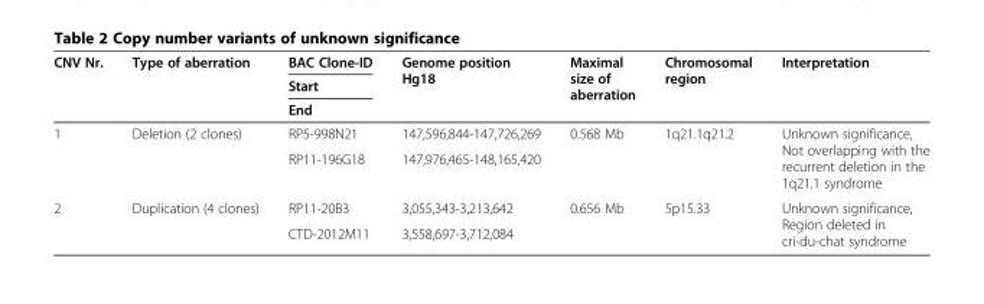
<table><thead><tr><td rowspan="3">CNV Nr.</td><td rowspan="3">Type of aberration</td><td rowspan="3">BAC Clone-ID Start End</td><td rowspan="3">Genome position Hg18</td><td rowspan="3">Maximal size of aberration</td><td rowspan="3">Chromosomal region</td><td rowspan="3">Interpretation</td></tr><tr></tr><tr></tr></thead><tbody><tr><td rowspan="2">1</td><td rowspan="2">Deletion (2 clones)</td><td>RP5-998N21</td><td>147,596,844-147,726,269</td><td rowspan="2">0.568 Mb</td><td rowspan="2">1q21.1q21.2</td><td rowspan="2">Unknown significance, Not overlapping with the recurrent deletion in the 1q21.1 syndrome</td></tr><tr><td>RP11-196G18</td><td>147,976,465-148,165,420</td></tr><tr><td rowspan="2">2</td><td rowspan="2">Duplication (4 clones)</td><td>RP11-20B3</td><td>3,055,343-3,213,642</td><td rowspan="2">0.656 Mb</td><td rowspan="2">5p15.33</td><td rowspan="2">Unknown significance, Region deleted in cri-du-chat syndrome</td></tr><tr><td>CTD-2012M11</td><td>3,558,697-3,712,084</td></tr></tbody></table>